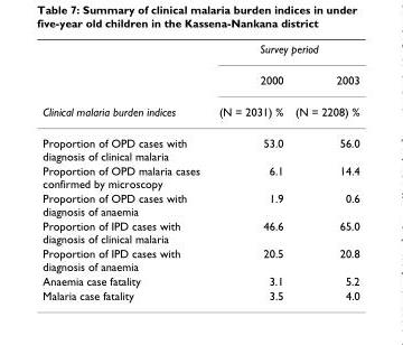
<table><thead><tr><td rowspan="3">Clinical malaria burden indices</td><td colspan="2">Survey period</td></tr><tr><td rowspan="2">2000 (N = 2031) %</td><td rowspan="2">2003 (N = 2208) %</td></tr><tr></tr></thead><tbody><tr><td>Proportion of OPD cases with diagnosis of clinical malaria</td><td>53.0</td><td>56.0</td></tr><tr><td>Proportion of OPD malaria cases confirmed by microscopy</td><td>6.1</td><td>14.4</td></tr><tr><td>Proportion of OPD cases with diagnosis of anaemia</td><td>1.9</td><td>0.6</td></tr><tr><td>Proportion of IPD cases with diagnosis of clinical malaria</td><td>46.6</td><td>65.0</td></tr><tr><td>Proportion of IPD cases with diagnosis of anaemia</td><td>20.5</td><td>20.8</td></tr><tr><td>Anaemia case fatality</td><td>3.1</td><td>5.2</td></tr><tr><td>Malaria case fatality</td><td>3.5</td><td>4.0</td></tr></tbody></table>